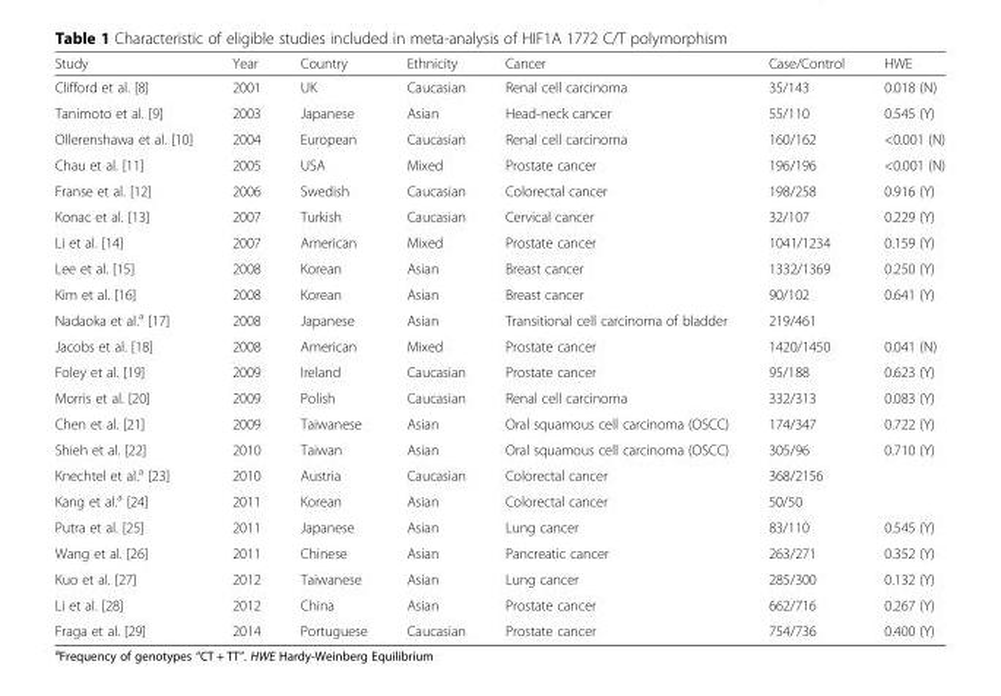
<table><thead><tr><td>Study</td><td>Year</td><td>Country</td><td>Ethnicity</td><td>Cancer</td><td>Case/Control</td><td>HWE</td></tr></thead><tbody><tr><td>Clifford et al. [8]</td><td>2001</td><td>UK</td><td>Caucasian</td><td>Renal cell carcinoma</td><td>35/143</td><td>0.018 (N)</td></tr><tr><td>Tanimoto et al. [9]</td><td>2003</td><td>Japanese</td><td>Asian</td><td>Head-neck cancer</td><td>55/110</td><td>0.545 (Y)</td></tr><tr><td>Ollerenshawa et al. [10]</td><td>2004</td><td>European</td><td>Caucasian</td><td>Renal cell carcinoma</td><td>160/162</td><td>&lt;0.001 (N)</td></tr><tr><td>Chau et al. [11]</td><td>2005</td><td>USA</td><td>Mixed</td><td>Prostate cancer</td><td>196/196</td><td>&lt;0.001 (N)</td></tr><tr><td>Franse et al. [12]</td><td>2006</td><td>Swedish</td><td>Caucasian</td><td>Colorectal cancer</td><td>198/258</td><td>0.916 (Y)</td></tr><tr><td>Konac et al. [13]</td><td>2007</td><td>Turkish</td><td>Caucasian</td><td>Cervical cancer</td><td>32/107</td><td>0.229 (Y)</td></tr><tr><td>Li et al. [14]</td><td>2007</td><td>American</td><td>Mixed</td><td>Prostate cancer</td><td>1041/1234</td><td>0.159 (Y)</td></tr><tr><td>Lee et al. [15]</td><td>2008</td><td>Korean</td><td>Asian</td><td>Breast cancer</td><td>1332/1369</td><td>0.250 (Y)</td></tr><tr><td>Kim et al. [16]</td><td>2008</td><td>Korean</td><td>Asian</td><td>Breast cancer</td><td>90/102</td><td>0.641 (Y)</td></tr><tr><td>Nadaoka et al.<sup>a</sup> [17]</td><td>2008</td><td>Japanese</td><td>Asian</td><td>Transitional cell carcinoma of bladder</td><td>219/461</td><td></td></tr><tr><td>Jacobs et al. [18]</td><td>2008</td><td>American</td><td>Mixed</td><td>Prostate cancer</td><td>1420/1450</td><td>0.041 (N)</td></tr><tr><td>Foley et al. [19]</td><td>2009</td><td>Ireland</td><td>Caucasian</td><td>Prostate cancer</td><td>95/188</td><td>0.623 (Y)</td></tr><tr><td>Morris et al. [20]</td><td>2009</td><td>Polish</td><td>Caucasian</td><td>Renal cell carcinoma</td><td>332/313</td><td>0.083 (Y)</td></tr><tr><td>Chen et al. [21]</td><td>2009</td><td>Taiwanese</td><td>Asian</td><td>Oral squamous cell carcinoma (OSCC)</td><td>174/347</td><td>0.722 (Y)</td></tr><tr><td>Shieh et al. [22]</td><td>2010</td><td>Taiwan</td><td>Asian</td><td>Oral squamous cell carcinoma (OSCC)</td><td>305/96</td><td>0.710 (Y)</td></tr><tr><td>Knechtel et al.<sup>a</sup> [23]</td><td>2010</td><td>Austria</td><td>Caucasian</td><td>Colorectal cancer</td><td>368/2156</td><td></td></tr><tr><td>Kang et al.<sup>a</sup> [24]</td><td>2011</td><td>Korean</td><td>Asian</td><td>Colorectal cancer</td><td>50/50</td><td></td></tr><tr><td>Putra et al. [25]</td><td>2011</td><td>Japanese</td><td>Asian</td><td>Lung cancer</td><td>83/110</td><td>0.545 (Y)</td></tr><tr><td>Wang et al. [26]</td><td>2011</td><td>Chinese</td><td>Asian</td><td>Pancreatic cancer</td><td>263/271</td><td>0.352 (Y)</td></tr><tr><td>Kuo et al. [27]</td><td>2012</td><td>Taiwanese</td><td>Asian</td><td>Lung cancer</td><td>285/300</td><td>0.132 (Y)</td></tr><tr><td>Li et al. [28]</td><td>2012</td><td>China</td><td>Asian</td><td>Prostate cancer</td><td>662/716</td><td>0.267 (Y)</td></tr><tr><td>Fraga et al. [29]</td><td>2014</td><td>Portuguese</td><td>Caucasian</td><td>Prostate cancer</td><td>754/736</td><td>0.400 (Y)</td></tr></tbody></table>